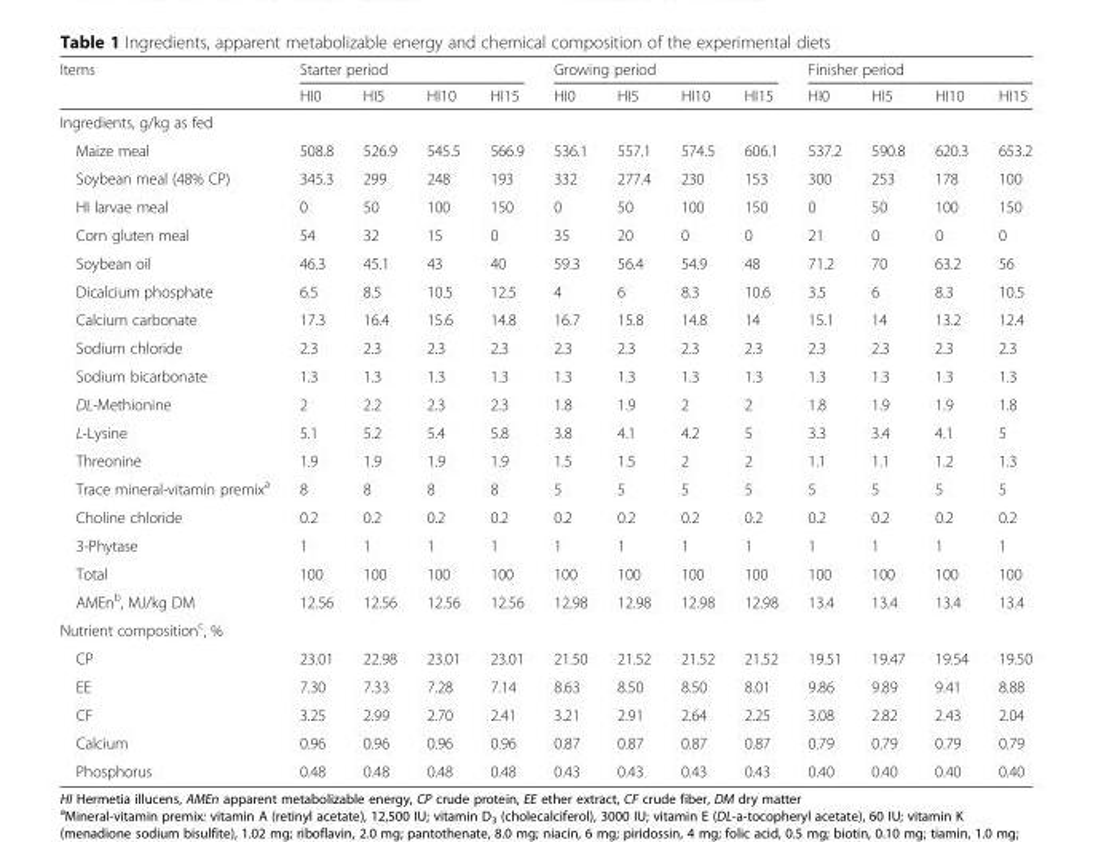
<table><thead><tr><td rowspan="2">Items</td><td colspan="4">Starter period</td><td colspan="4">Growing period</td><td colspan="4">Finisher period</td></tr><tr><td>HI0</td><td>HI5</td><td>HI10</td><td>HI15</td><td>HI0</td><td>HI5</td><td>HI10</td><td>HI15</td><td>HI0</td><td>HI5</td><td>HI10</td><td>HI15</td></tr></thead><tbody><tr><td colspan="13">Ingredients, g/kg as fed</td></tr><tr><td>Maize meal</td><td>508.8</td><td>526.9</td><td>545.5</td><td>566.9</td><td>536.1</td><td>557.1</td><td>574.5</td><td>606.1</td><td>537.2</td><td>590.8</td><td>620.3</td><td>653.2</td></tr><tr><td>Soybean meal (48% CP)</td><td>345.3</td><td>299</td><td>248</td><td>193</td><td>332</td><td>277.4</td><td>230</td><td>153</td><td>300</td><td>253</td><td>178</td><td>100</td></tr><tr><td>HI larvae meal</td><td>0</td><td>50</td><td>100</td><td>150</td><td>0</td><td>50</td><td>100</td><td>150</td><td>0</td><td>50</td><td>100</td><td>150</td></tr><tr><td>Corn gluten meal</td><td>54</td><td>32</td><td>15</td><td>0</td><td>35</td><td>20</td><td>0</td><td>0</td><td>21</td><td>0</td><td>0</td><td>0</td></tr><tr><td>Soybean oil</td><td>46.3</td><td>45.1</td><td>43</td><td>40</td><td>59.3</td><td>56.4</td><td>54.9</td><td>48</td><td>71.2</td><td>70</td><td>63.2</td><td>56</td></tr><tr><td>Dicalcium phosphate</td><td>6.5</td><td>8.5</td><td>10.5</td><td>12.5</td><td>4</td><td>6</td><td>8.3</td><td>10.6</td><td>3.5</td><td>6</td><td>8.3</td><td>10.5</td></tr><tr><td>Calcium carbonate</td><td>17.3</td><td>16.4</td><td>15.6</td><td>14.8</td><td>16.7</td><td>15.8</td><td>14.8</td><td>14</td><td>15.1</td><td>14</td><td>13.2</td><td>12.4</td></tr><tr><td>Sodium chloride</td><td>2.3</td><td>2.3</td><td>2.3</td><td>2.3</td><td>2.3</td><td>2.3</td><td>2.3</td><td>2.3</td><td>2.3</td><td>2.3</td><td>2.3</td><td>2.3</td></tr><tr><td>Sodium bicarbonate</td><td>1.3</td><td>1.3</td><td>1.3</td><td>1.3</td><td>1.3</td><td>1.3</td><td>1.3</td><td>1.3</td><td>1.3</td><td>1.3</td><td>1.3</td><td>1.3</td></tr><tr><td>DL-Methionine</td><td>2</td><td>2.2</td><td>2.3</td><td>2.3</td><td>1.8</td><td>1.9</td><td>2</td><td>2</td><td>1.8</td><td>1.9</td><td>1.9</td><td>1.8</td></tr><tr><td>L-Lysine</td><td>5.1</td><td>5.2</td><td>5.4</td><td>5.8</td><td>3.8</td><td>4.1</td><td>4.2</td><td>5</td><td>3.3</td><td>3.4</td><td>4.1</td><td>5</td></tr><tr><td>Threonine</td><td>1.9</td><td>1.9</td><td>1.9</td><td>1.9</td><td>1.5</td><td>1.5</td><td>2</td><td>2</td><td>1.1</td><td>1.1</td><td>1.2</td><td>1.3</td></tr><tr><td>Trace mineral-vitamin premix<sup>a</sup></td><td>8</td><td>8</td><td>8</td><td>8</td><td>5</td><td>5</td><td>5</td><td>5</td><td>5</td><td>5</td><td>5</td><td>5</td></tr><tr><td>Choline chloride</td><td>0.2</td><td>0.2</td><td>0.2</td><td>0.2</td><td>0.2</td><td>0.2</td><td>0.2</td><td>0.2</td><td>0.2</td><td>0.2</td><td>0.2</td><td>0.2</td></tr><tr><td>3-Phytase</td><td>1</td><td>1</td><td>1</td><td>1</td><td>1</td><td>1</td><td>1</td><td>1</td><td>1</td><td>1</td><td>1</td><td>1</td></tr><tr><td>Total</td><td>100</td><td>100</td><td>100</td><td>100</td><td>100</td><td>100</td><td>100</td><td>100</td><td>100</td><td>100</td><td>100</td><td>100</td></tr><tr><td>AMEn<sup>b</sup>, MJ/kg DM</td><td>12.56</td><td>12.56</td><td>12.56</td><td>12.56</td><td>12.98</td><td>12.98</td><td>12.98</td><td>12.98</td><td>13.4</td><td>13.4</td><td>13.4</td><td>13.4</td></tr><tr><td colspan="13">Nutrient composition<sup>c</sup>, %</td></tr><tr><td>CP</td><td>23.01</td><td>22.98</td><td>23.01</td><td>23.01</td><td>21.50</td><td>21.52</td><td>21.52</td><td>21.52</td><td>19.51</td><td>19.47</td><td>19.54</td><td>19.50</td></tr><tr><td>EE</td><td>7.30</td><td>7.33</td><td>7.28</td><td>7.14</td><td>8.63</td><td>8.50</td><td>8.50</td><td>8.01</td><td>9.86</td><td>9.89</td><td>9.41</td><td>8.88</td></tr><tr><td>CF</td><td>3.25</td><td>2.99</td><td>2.70</td><td>2.41</td><td>3.21</td><td>2.91</td><td>2.64</td><td>2.25</td><td>3.08</td><td>2.82</td><td>2.43</td><td>2.04</td></tr><tr><td>Calcium</td><td>0.96</td><td>0.96</td><td>0.96</td><td>0.96</td><td>0.87</td><td>0.87</td><td>0.87</td><td>0.87</td><td>0.79</td><td>0.79</td><td>0.79</td><td>0.79</td></tr><tr><td>Phosphorus</td><td>0.48</td><td>0.48</td><td>0.48</td><td>0.48</td><td>0.43</td><td>0.43</td><td>0.43</td><td>0.43</td><td>0.40</td><td>0.40</td><td>0.40</td><td>0.40</td></tr></tbody></table>